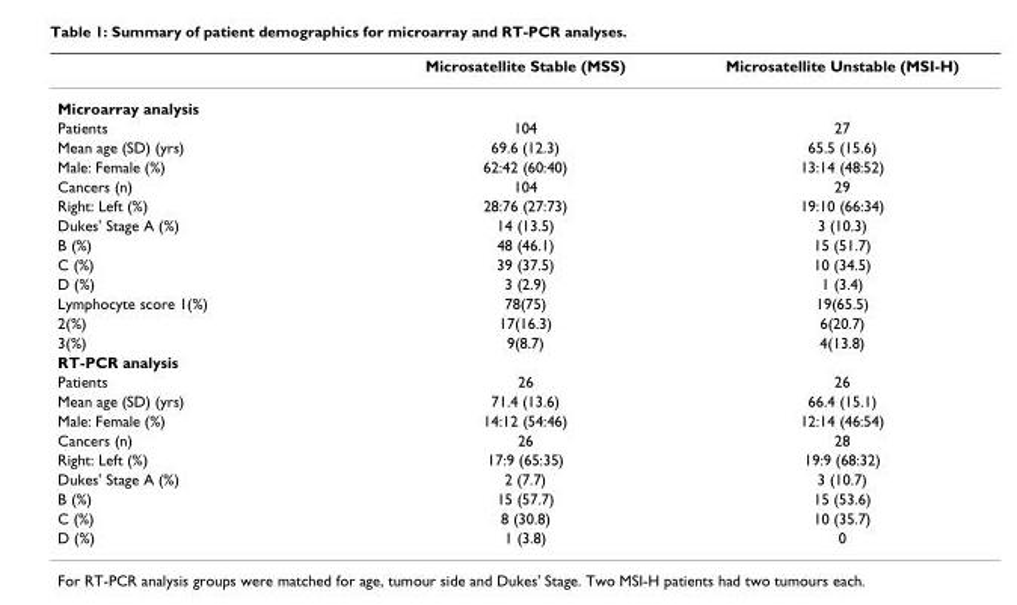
<table><thead><tr><td></td><td>Microsatellite Stable (MSS)</td><td>Microsatellite Unstable (MSI-H)</td></tr></thead><tbody><tr><td colspan="3">Microarray analysis</td></tr><tr><td>Patients</td><td>104</td><td>27</td></tr><tr><td>Mean age (SD) (yrs)</td><td>69.6 (12.3)</td><td>65.5 (15.6)</td></tr><tr><td>Male: Female (%)</td><td>62:42 (60:40)</td><td>13:14 (48:52)</td></tr><tr><td>Cancers (n)</td><td>104</td><td>29</td></tr><tr><td>Right: Left (%)</td><td>28:76 (27:73)</td><td>19:10 (66:34)</td></tr><tr><td>Dukes&#x27; Stage A (%)</td><td>14 (13.5)</td><td>3 (10.3)</td></tr><tr><td>B (%)</td><td>48 (46.1)</td><td>15 (51.7)</td></tr><tr><td>C (%)</td><td>39 (37.5)</td><td>10 (34.5)</td></tr><tr><td>D (%)</td><td>3 (2.9)</td><td>1 (3.4)</td></tr><tr><td>Lymphocyte score 1(%)</td><td>78(75)</td><td>19(65.5)</td></tr><tr><td>2(%)</td><td>17(16.3)</td><td>6(20.7)</td></tr><tr><td>3(%)</td><td>9(8.7)</td><td>4(13.8)</td></tr><tr><td colspan="3">RT-PCR analysis</td></tr><tr><td>Patients</td><td>26</td><td>26</td></tr><tr><td>Mean age (SD) (yrs)</td><td>71.4 (13.6)</td><td>66.4 (15.1)</td></tr><tr><td>Male: Female (%)</td><td>14:12 (54:46)</td><td>12:14 (46:54)</td></tr><tr><td>Cancers (n)</td><td>26</td><td>28</td></tr><tr><td>Right: Left (%)</td><td>17:9 (65:35)</td><td>19:9 (68:32)</td></tr><tr><td>Dukes&#x27; Stage A (%)</td><td>2 (7.7)</td><td>3 (10.7)</td></tr><tr><td>B (%)</td><td>15 (57.7)</td><td>15 (53.6)</td></tr><tr><td>C (%)</td><td>8 (30.8)</td><td>10 (35.7)</td></tr><tr><td>D (%)</td><td>1 (3.8)</td><td>0</td></tr></tbody></table>